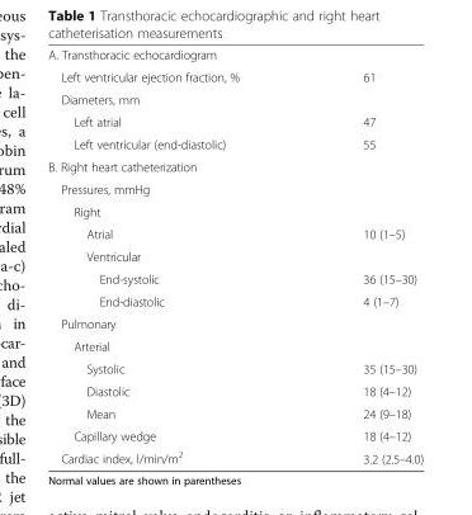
<table><tbody><tr><td colspan="2">A. Transthoracic echocardiogram</td></tr><tr><td>Left ventricular ejection fraction, %</td><td>61</td></tr><tr><td colspan="2">Diameters, mm</td></tr><tr><td>Left atrial</td><td>47</td></tr><tr><td>Left ventricular (end-diastolic)</td><td>55</td></tr><tr><td colspan="2">B. Right heart catheterization</td></tr><tr><td colspan="2">Pressures, mmHg</td></tr><tr><td colspan="2">Right</td></tr><tr><td>Atrial</td><td>10 (1–5)</td></tr><tr><td colspan="2">Ventricular</td></tr><tr><td>End-systolic</td><td>36 (15–30)</td></tr><tr><td>End-diastolic</td><td>4 (1–7)</td></tr><tr><td colspan="2">Pulmonary</td></tr><tr><td colspan="2">Arterial</td></tr><tr><td>Systolic</td><td>35 (15–30)</td></tr><tr><td>Diastolic</td><td>18 (4–12)</td></tr><tr><td>Mean</td><td>24 (9–18)</td></tr><tr><td>Capillary wedge</td><td>18 (4–12)</td></tr><tr><td>Cardiac index, l/min/m<sup>2</sup></td><td>3.2 (2.5–4.0)</td></tr></tbody></table>